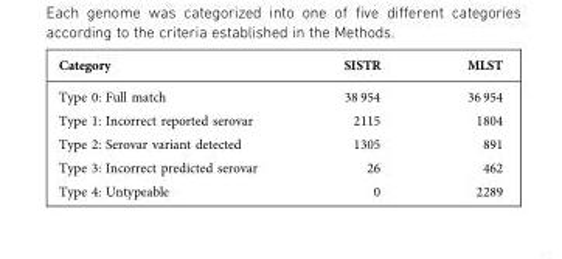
<table><thead><tr><td>Category</td><td>SISTR</td><td>MLST</td></tr></thead><tbody><tr><td>Type 0: Full match</td><td>38 954</td><td>36 954</td></tr><tr><td>Type 1: Incorrect reported serovar</td><td>2115</td><td>1804</td></tr><tr><td>Type 2: Serovar variant detected</td><td>1305</td><td>891</td></tr><tr><td>Type 3: Incorrect predicted serovar</td><td>26</td><td>462</td></tr><tr><td>Type 4: Untypeable</td><td>0</td><td>2289</td></tr></tbody></table>